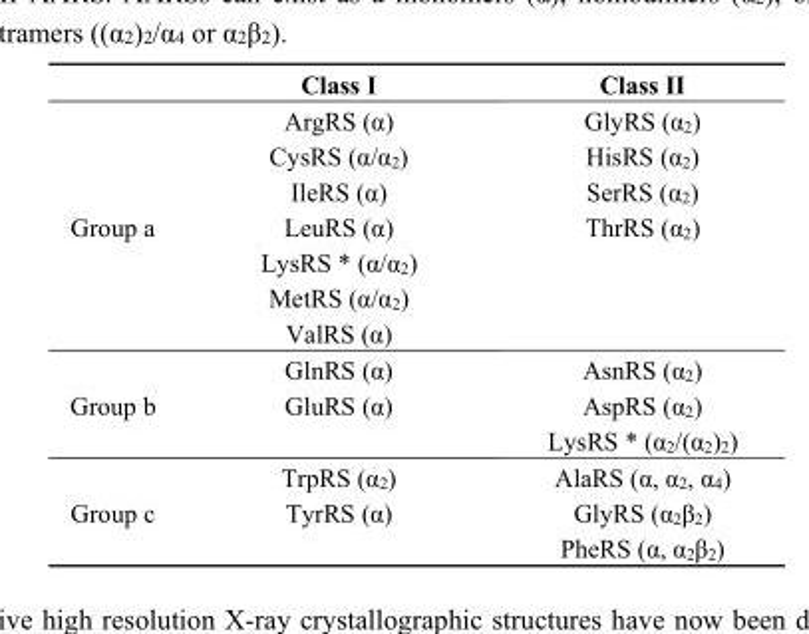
<table><thead><tr><td></td><td>Class I</td><td>Class II</td></tr></thead><tbody><tr><td rowspan="7">Group a</td><td>ArgRS (α)</td><td>GlyRS (α<sub>2</sub>)</td></tr><tr><td>CysRS (α/α<sub>2</sub>)</td><td>HisRS (α<sub>2</sub>)</td></tr><tr><td>IleRS (α)</td><td>SerRS (α<sub>2</sub>)</td></tr><tr><td>LeuRS (α)</td><td>ThrRS (α<sub>2</sub>)</td></tr><tr><td>LysRS * (α/α<sub>2</sub>)</td><td></td></tr><tr><td>MetRS (α/α<sub>2</sub>)</td><td></td></tr><tr><td>ValRS (α)</td><td></td></tr><tr><td rowspan="3">Group b</td><td>GlnRS (α)</td><td>AsnRS (α<sub>2</sub>)</td></tr><tr><td>GluRS (α)</td><td>AspRS (α<sub>2</sub>)</td></tr><tr><td></td><td>LysRS * (α<sub>2</sub>/(α<sub>2</sub>)<sub>2</sub>)</td></tr><tr><td rowspan="3">Group c</td><td>TrpRS (α<sub>2</sub>)</td><td>AlaRS (α, α<sub>2</sub>, α<sub>4</sub>)</td></tr><tr><td>TyrRS (α)</td><td>GlyRS (α<sub>2</sub>β<sub>2</sub>)</td></tr><tr><td></td><td>PheRS (α, α<sub>2</sub>β<sub>2</sub>)</td></tr></tbody></table>